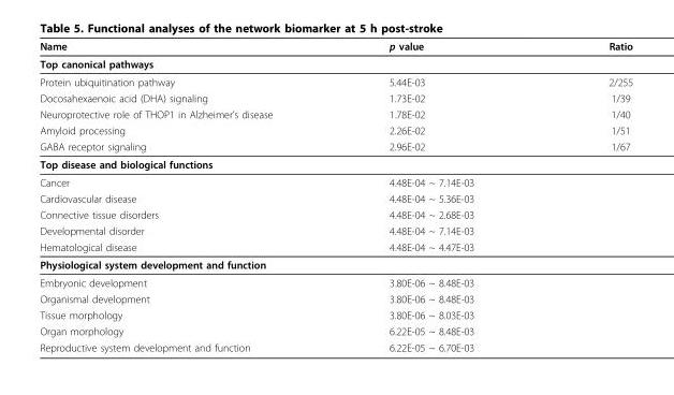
<table><thead><tr><td>Name</td><td>p value</td><td>Ratio</td></tr></thead><tbody><tr><td colspan="3">Top canonical pathways</td></tr><tr><td>Protein ubiquitination pathway</td><td>5.44E-03</td><td>2/255</td></tr><tr><td>Docosahexaenoic acid (DHA) signaling</td><td>1.73E-02</td><td>1/39</td></tr><tr><td>Neuroprotective role of THOP1 in Alzheimer’s disease</td><td>1.78E-02</td><td>1/40</td></tr><tr><td>Amyloid processing</td><td>2.26E-02</td><td>1/51</td></tr><tr><td>GABA receptor signaling</td><td>2.96E-02</td><td>1/67</td></tr><tr><td colspan="3">Top disease and biological functions</td></tr><tr><td>Cancer</td><td colspan="2">4.48E-04 ~ 7.14E-03</td></tr><tr><td>Cardiovascular disease</td><td colspan="2">4.48E-04 ~ 5.36E-03</td></tr><tr><td>Connective tissue disorders</td><td colspan="2">4.48E-04 ~ 2.68E-03</td></tr><tr><td>Developmental disorder</td><td colspan="2">4.48E-04 ~ 7.14E-03</td></tr><tr><td>Hematological disease</td><td colspan="2">4.48E-04 ~ 4.47E-03</td></tr><tr><td colspan="3">Physiological system development and function</td></tr><tr><td>Embryonic development</td><td colspan="2">3.80E-06 ~ 8.48E-03</td></tr><tr><td>Organismal development</td><td colspan="2">3.80E-06 ~ 8.48E-03</td></tr><tr><td>Tissue morphology</td><td colspan="2">3.80E-06 ~ 8.03E-03</td></tr><tr><td>Organ morphology</td><td colspan="2">6.22E-05 ~ 8.48E-03</td></tr><tr><td>Reproductive system development and function</td><td colspan="2">6.22E-05 ~ 6.70E-03</td></tr></tbody></table>